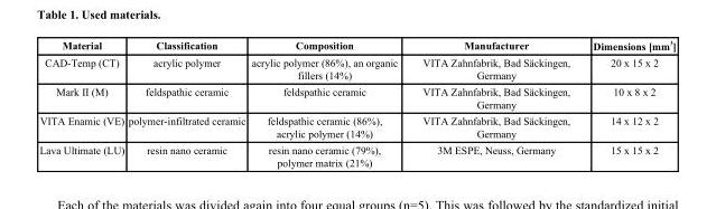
<table><thead><tr><td>Material</td><td>Classification</td><td>Composition</td><td>Manufacturer</td><td>Dimensions [mm <sup>3</sup>]</td></tr></thead><tbody><tr><td>CAD-Temp (CT)</td><td>acrylic polymer</td><td>acrylic polymer (86%), an organic fillers (14%)</td><td>VITA Zahnfabrik, Bad Säckingen, Germany</td><td>20 x 15 x 2</td></tr><tr><td>Mark II (M)</td><td>feldspathic ceramic</td><td>feldspathic ceramic</td><td>VITA Zahnfabrik, Bad Säckingen, Germany</td><td>10 x 8 x 2</td></tr><tr><td>VITA Enamic (VE)</td><td>polymer-infiltrated ceramic</td><td>feldspathic ceramic (86%), acrylic polymer (14%)</td><td>VITA Zahnfabrik, Bad Säckingen, Germany</td><td>14 x 12 x 2</td></tr><tr><td>Lava Ultimate (LU)</td><td>resin nano ceramic</td><td>resin nano ceramic (79%), polymer matrix (21%)</td><td>3M ESPE, Neuss, Germany</td><td>15 x 15 x 2</td></tr></tbody></table>